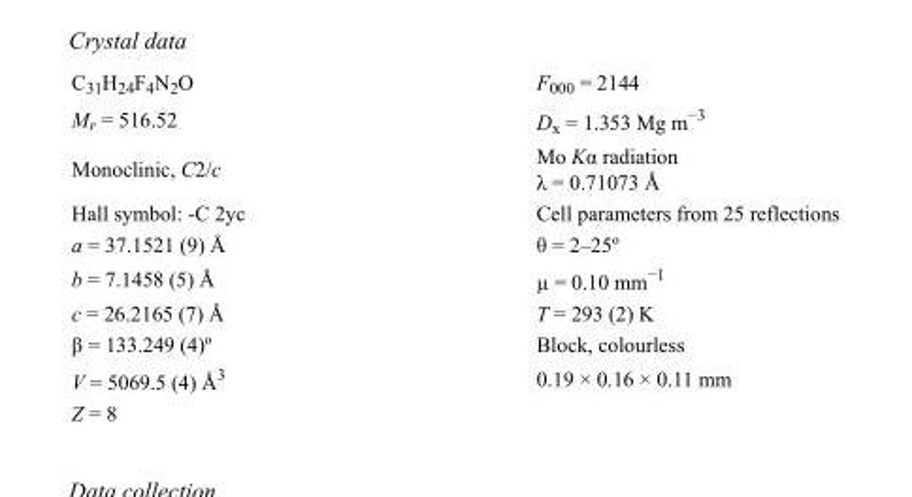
<table><tbody><tr><td>C<sub>31</sub>H<sub>24</sub>F<sub>4</sub>N<sub>2</sub>O</td><td>F<sub>000</sub> = 2144</td></tr><tr><td>M<sub>r</sub> = 516.52</td><td>D<sub>x</sub> = 1.353 Mg m<sup>−3</sup></td></tr><tr><td>Monoclinic, C2/c</td><td>Mo Kα radiation λ = 0.71073 Å</td></tr><tr><td>Hall symbol: -C 2yc</td><td>Cell parameters from 25 reflections</td></tr><tr><td>a = 37.1521 (9) Å</td><td>θ = 2–25º</td></tr><tr><td>b = 7.1458 (5) Å</td><td>µ = 0.10 mm<sup>−1</sup></td></tr><tr><td>c = 26.2165 (7) Å</td><td>T = 293 (2) K</td></tr><tr><td>β = 133.249 (4)º</td><td>Block, colourless</td></tr><tr><td>V = 5069.5 (4) Å<sup>3</sup></td><td>0.19 × 0.16 × 0.11 mm</td></tr><tr><td>Z = 8</td><td></td></tr></tbody></table>